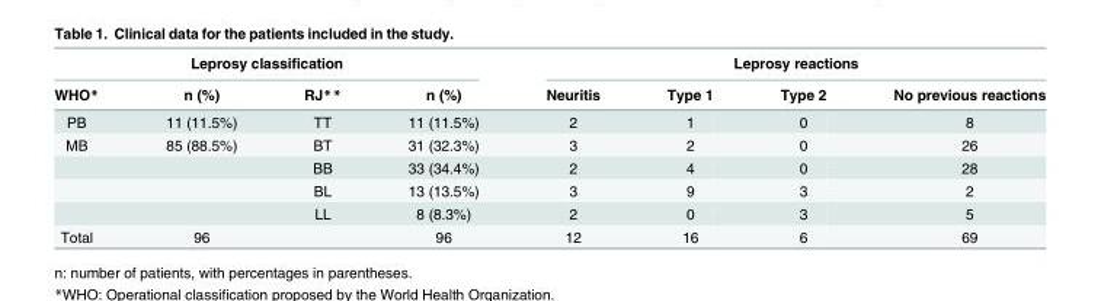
<table><thead><tr><td colspan="4">Leprosy classification</td><td colspan="4">Leprosy reactions</td></tr><tr><td>WHO*</td><td>n (%)</td><td>RJ**</td><td>n (%)</td><td>Neuritis</td><td>Type 1</td><td>Type 2</td><td>No previous reactions</td></tr></thead><tbody><tr><td>PB</td><td>11 (11.5%)</td><td>TT</td><td>11 (11.5%)</td><td>2</td><td>1</td><td>0</td><td>8</td></tr><tr><td rowspan="4">MB</td><td>85 (88.5%)</td><td>BT</td><td>31 (32.3%)</td><td>3</td><td>2</td><td>0</td><td>26</td></tr><tr><td></td><td>BB</td><td>33 (34.4%)</td><td>2</td><td>4</td><td>0</td><td>28</td></tr><tr><td></td><td>BL</td><td>13 (13.5%)</td><td>3</td><td>9</td><td>3</td><td>2</td></tr><tr><td></td><td>LL</td><td>8 (8.3%)</td><td>2</td><td>0</td><td>3</td><td>5</td></tr><tr><td>Total</td><td>96</td><td></td><td>96</td><td>12</td><td>16</td><td>6</td><td>69</td></tr></tbody></table>